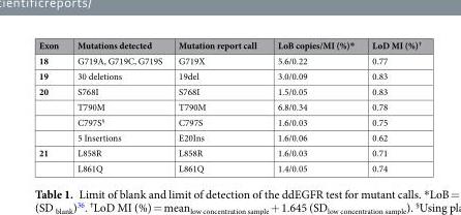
<table><thead><tr><td>Exon</td><td>Mutations detected</td><td>Mutation report call</td><td>LoB copies/MI (%)*</td><td>LoD MI (%)<sup>†</sup></td></tr></thead><tbody><tr><td>18</td><td>G719A, G719C, G719S</td><td>G719X</td><td>5.6/0.22</td><td>0.77</td></tr><tr><td>19</td><td>30 deletions</td><td>19del</td><td>3.0/0.09</td><td>0.83</td></tr><tr><td rowspan="4">20</td><td>S768I</td><td>S768I</td><td>1.5/0.05</td><td>0.83</td></tr><tr><td>T790M</td><td>T790M</td><td>6.8/0.34</td><td>0.78</td></tr><tr><td>C797S<sup>§</sup></td><td>C797S</td><td>1.6/0.03</td><td>0.75</td></tr><tr><td>5 Insertions</td><td>E20Ins</td><td>1.6/0.06</td><td>0.62</td></tr><tr><td rowspan="2">21</td><td>L858R</td><td>L858R</td><td>1.6/0.03</td><td>0.71</td></tr><tr><td>L861Q</td><td>L861Q</td><td>1.4/0.05</td><td>0.74</td></tr></tbody></table>